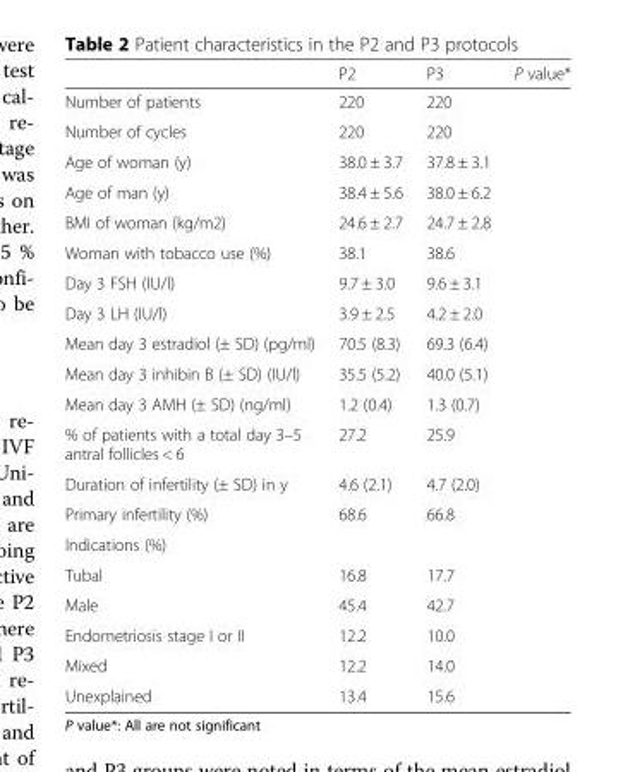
<table><thead><tr><td></td><td>P2</td><td>P3</td><td>P value*</td></tr></thead><tbody><tr><td>Number of patients</td><td>220</td><td>220</td><td></td></tr><tr><td>Number of cycles</td><td>220</td><td>220</td><td></td></tr><tr><td>Age of woman (y)</td><td>38.0 ± 3.7</td><td>37.8 ± 3.1</td><td></td></tr><tr><td>Age of man (y)</td><td>38.4 ± 5.6</td><td>38.0 ± 6.2</td><td></td></tr><tr><td>BMI of woman (kg/m2)</td><td>24.6 ± 2.7</td><td>24.7 ± 2.8</td><td></td></tr><tr><td>Woman with tobacco use (%)</td><td>38.1</td><td>38.6</td><td></td></tr><tr><td>Day 3 FSH (IU/l)</td><td>9.7 ± 3.0</td><td>9.6 ± 3.1</td><td></td></tr><tr><td>Day 3 LH (IU/l)</td><td>3.9 ± 2.5</td><td>4.2 ± 2.0</td><td></td></tr><tr><td>Mean day 3 estradiol (± SD) (pg/ml)</td><td>70.5 (8.3)</td><td>69.3 (6.4)</td><td></td></tr><tr><td>Mean day 3 inhibin B (± SD) (IU/l)</td><td>35.5 (5.2)</td><td>40.0 (5.1)</td><td></td></tr><tr><td>Mean day 3 AMH (± SD) (ng/ml)</td><td>1.2 (0.4)</td><td>1.3 (0.7)</td><td></td></tr><tr><td>% of patients with a total day 3–5 antral follicles &lt; 6</td><td>27.2</td><td>25.9</td><td></td></tr><tr><td>Duration of infertility (± SD) in y</td><td>4.6 (2.1)</td><td>4.7 (2.0)</td><td></td></tr><tr><td>Primary infertility (%)</td><td>68.6</td><td>66.8</td><td></td></tr><tr><td colspan="4">Indications (%)</td></tr><tr><td>Tubal</td><td>16.8</td><td>17.7</td><td></td></tr><tr><td>Male</td><td>45.4</td><td>42.7</td><td></td></tr><tr><td>Endometriosis stage I or II</td><td>12.2</td><td>10.0</td><td></td></tr><tr><td>Mixed</td><td>12.2</td><td>14.0</td><td></td></tr><tr><td>Unexplained</td><td>13.4</td><td>15.6</td><td></td></tr></tbody></table>